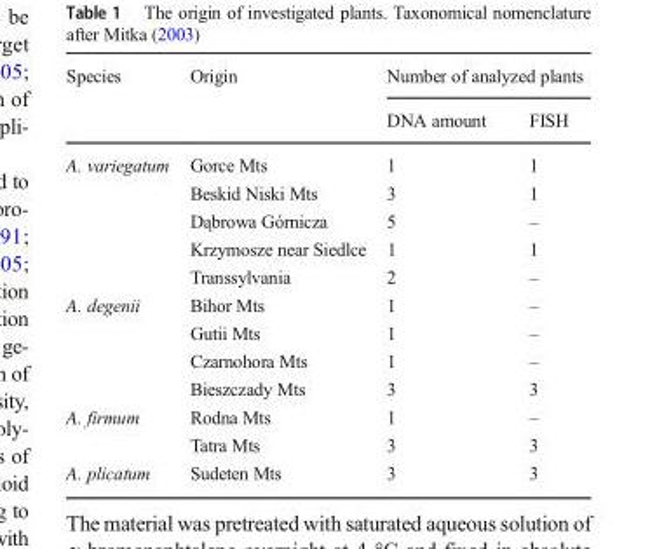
<table><thead><tr><td rowspan="2">Species</td><td rowspan="2">Origin</td><td colspan="2">Number of analyzed plants</td></tr><tr><td>DNA amount</td><td>FISH</td></tr></thead><tbody><tr><td rowspan="5">A. variegatum</td><td>Gorce Mts</td><td>1</td><td>1</td></tr><tr><td>Beskid Niski Mts</td><td>3</td><td>1</td></tr><tr><td>Dąbrowa Górnicza</td><td>5</td><td>–</td></tr><tr><td>Krzymosze near Siedlce</td><td>1</td><td>1</td></tr><tr><td>Transsylvania</td><td>2</td><td>–</td></tr><tr><td rowspan="4">A. degenii</td><td>Bihor Mts</td><td>1</td><td>–</td></tr><tr><td>Gutii Mts</td><td>1</td><td>–</td></tr><tr><td>Czarnohora Mts</td><td>1</td><td>–</td></tr><tr><td>Bieszczady Mts</td><td>3</td><td>3</td></tr><tr><td rowspan="2">A. firmum</td><td>Rodna Mts</td><td>1</td><td>–</td></tr><tr><td>Tatra Mts</td><td>3</td><td>3</td></tr><tr><td>A. plicatum</td><td>Sudeten Mts</td><td>3</td><td>3</td></tr></tbody></table>